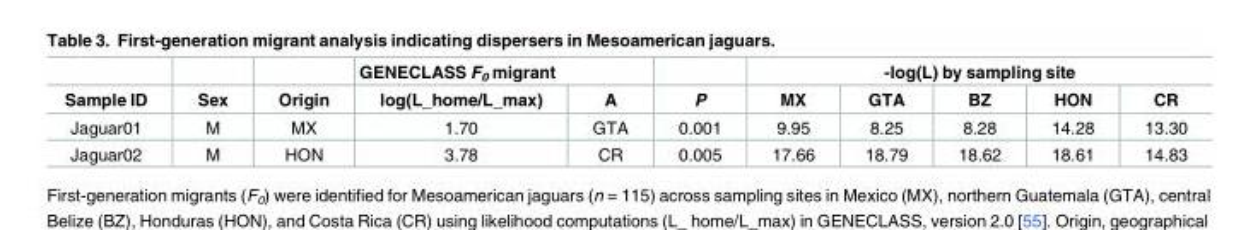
<table><thead><tr><td rowspan="2">Sample ID</td><td rowspan="2">Sex</td><td rowspan="2">Origin</td><td colspan="2">GENECLASS F<sub>0</sub> migrant</td><td rowspan="2">P</td><td colspan="5">-log(L) by sampling site</td></tr><tr><td>log(L_home/L_max)</td><td>A</td><td>MX</td><td>GTA</td><td>BZ</td><td>HON</td><td>CR</td></tr></thead><tbody><tr><td>Jaguar01</td><td>M</td><td>MX</td><td>1.70</td><td>GTA</td><td>0.001</td><td>9.95</td><td>8.25</td><td>8.28</td><td>14.28</td><td>13.30</td></tr><tr><td>Jaguar02</td><td>M</td><td>HON</td><td>3.78</td><td>CR</td><td>0.005</td><td>17.66</td><td>18.79</td><td>18.62</td><td>18.61</td><td>14.83</td></tr></tbody></table>